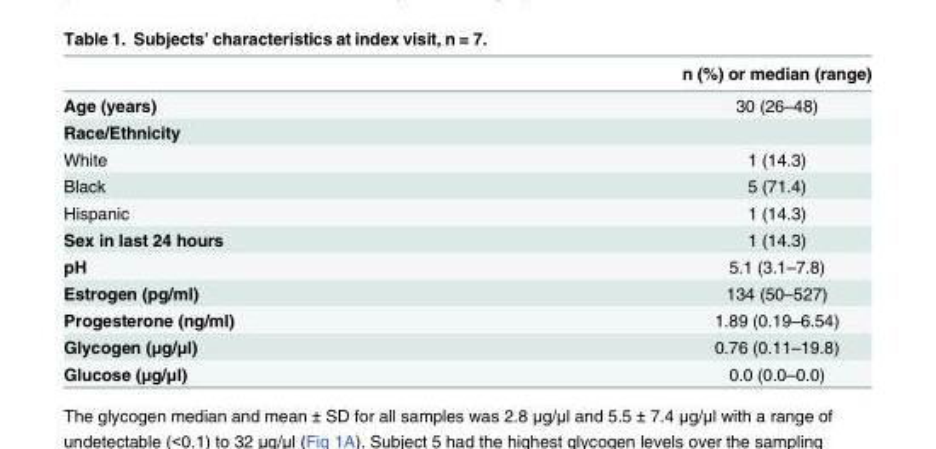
<table><thead><tr><td></td><td>n (%) or median (range)</td></tr></thead><tbody><tr><td>Age (years)</td><td>30 (26–48)</td></tr><tr><td colspan="2">Race/Ethnicity</td></tr><tr><td>White</td><td>1 (14.3)</td></tr><tr><td>Black</td><td>5 (71.4)</td></tr><tr><td>Hispanic</td><td>1 (14.3)</td></tr><tr><td>Sex in last 24 hours</td><td>1 (14.3)</td></tr><tr><td>pH</td><td>5.1 (3.1–7.8)</td></tr><tr><td>Estrogen (pg/ml)</td><td>134 (50–527)</td></tr><tr><td>Progesterone (ng/ml)</td><td>1.89 (0.19–6.54)</td></tr><tr><td>Glycogen (μg/μl)</td><td>0.76 (0.11–19.8)</td></tr><tr><td>Glucose (μg/μl)</td><td>0.0 (0.0–0.0)</td></tr></tbody></table>